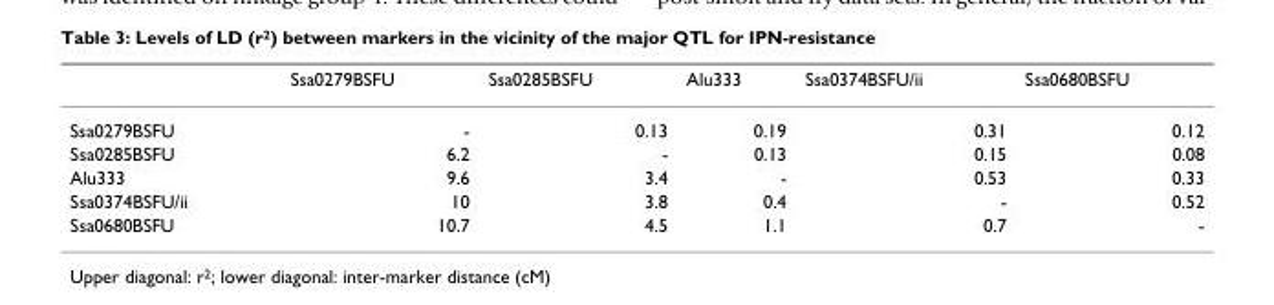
<table><thead><tr><td></td><td>Ssa0279BSFU</td><td>Ssa0285BSFU</td><td>Alu333</td><td>Ssa0374BSFU/ii</td><td>Ssa0680BSFU</td></tr></thead><tbody><tr><td>Ssa0279BSFU</td><td>-</td><td>0.13</td><td>0.19</td><td>0.31</td><td>0.12</td></tr><tr><td>Ssa0285BSFU</td><td>6.2</td><td>-</td><td>0.13</td><td>0.15</td><td>0.08</td></tr><tr><td>Alu333</td><td>9.6</td><td>3.4</td><td>-</td><td>0.53</td><td>0.33</td></tr><tr><td>Ssa0374BSFU/ii</td><td>10</td><td>3.8</td><td>0.4</td><td>-</td><td>0.52</td></tr><tr><td>Ssa0680BSFU</td><td>10.7</td><td>4.5</td><td>1.1</td><td>0.7</td><td>-</td></tr></tbody></table>